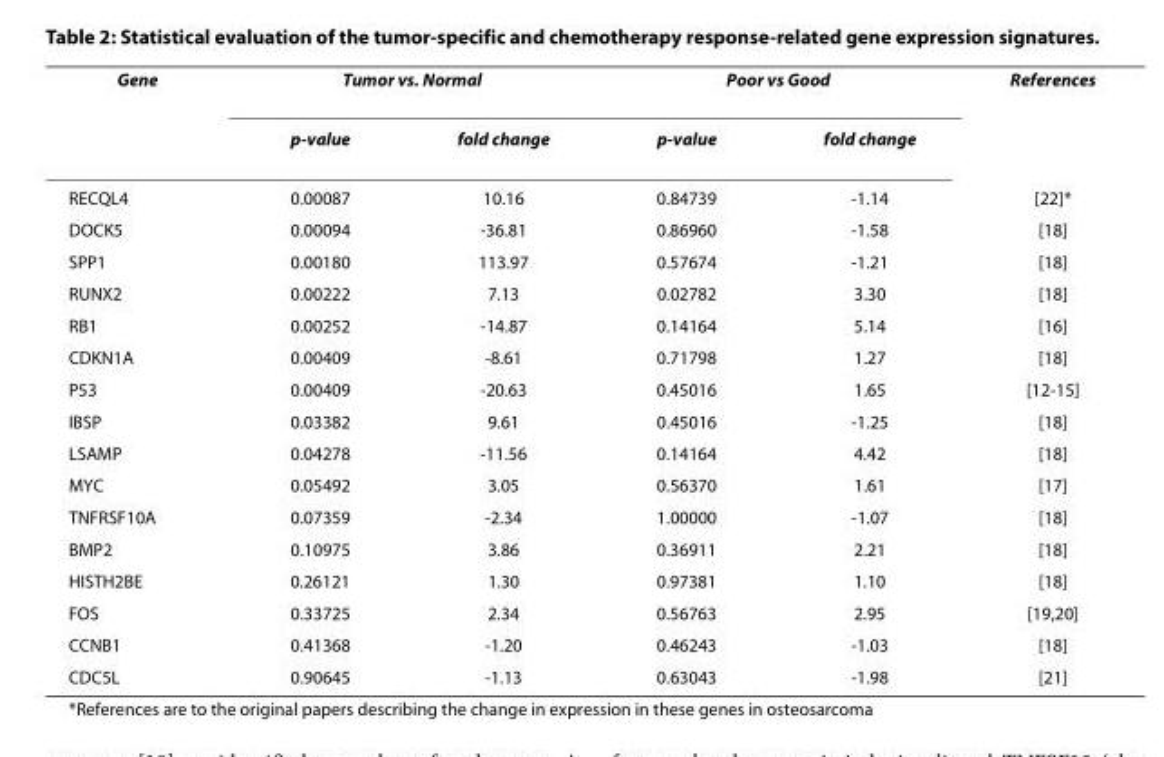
<table><tbody><tr><td rowspan="2">Gene</td><td colspan="2">Tumor vs. Normal</td><td colspan="2">Poor vs Good</td><td>References</td></tr><tr><td>p-value</td><td>fold change</td><td>p-value</td><td>fold change</td><td></td></tr><tr><td>RECQL4</td><td>0.00087</td><td>10.16</td><td>0.84739</td><td>-1.14</td><td>[22]*</td></tr><tr><td>DOCK5</td><td>0.00094</td><td>-36.81</td><td>0.86960</td><td>-1.58</td><td>[18]</td></tr><tr><td>SPP1</td><td>0.00180</td><td>113.97</td><td>0.57674</td><td>-1.21</td><td>[18]</td></tr><tr><td>RUNX2</td><td>0.00222</td><td>7.13</td><td>0.02782</td><td>3.30</td><td>[18]</td></tr><tr><td>RB1</td><td>0.00252</td><td>-14.87</td><td>0.14164</td><td>5.14</td><td>[16]</td></tr><tr><td>CDKN1A</td><td>0.00409</td><td>-8.61</td><td>0.71798</td><td>1.27</td><td>[18]</td></tr><tr><td>P53</td><td>0.00409</td><td>-20.63</td><td>0.45016</td><td>1.65</td><td>[12-15]</td></tr><tr><td>IBSP</td><td>0.03382</td><td>9.61</td><td>0.45016</td><td>-1.25</td><td>[18]</td></tr><tr><td>LSAMP</td><td>0.04278</td><td>-11.56</td><td>0.14164</td><td>4.42</td><td>[18]</td></tr><tr><td>MYC</td><td>0.05492</td><td>3.05</td><td>0.56370</td><td>1.61</td><td>[17]</td></tr><tr><td>TNFRSF10A</td><td>0.07359</td><td>-2.34</td><td>1.00000</td><td>-1.07</td><td>[18]</td></tr><tr><td>BMP2</td><td>0.10975</td><td>3.86</td><td>0.36911</td><td>2.21</td><td>[18]</td></tr><tr><td>HISTH2BE</td><td>0.26121</td><td>1.30</td><td>0.97381</td><td>1.10</td><td>[18]</td></tr><tr><td>FOS</td><td>0.33725</td><td>2.34</td><td>0.56763</td><td>2.95</td><td>[19,20]</td></tr><tr><td>CCNB1</td><td>0.41368</td><td>-1.20</td><td>0.46243</td><td>-1.03</td><td>[18]</td></tr><tr><td>CDC5L</td><td>0.90645</td><td>-1.13</td><td>0.63043</td><td>-1.98</td><td>[21]</td></tr></tbody></table>